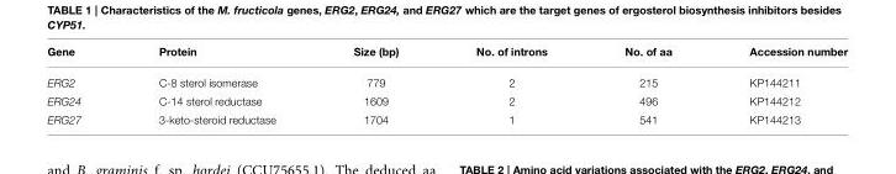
<table><thead><tr><td>Gene</td><td>Protein</td><td>Size (bp)</td><td>No. of introns</td><td>No. of aa</td><td>Accession number</td></tr></thead><tbody><tr><td>ERG2</td><td>C-8 sterol isomerase</td><td>779</td><td>2</td><td>215</td><td>KP144211</td></tr><tr><td>ERG24</td><td>C-14 sterol reductase</td><td>1609</td><td>2</td><td>496</td><td>KP144212</td></tr><tr><td>ERG27</td><td>3-keto-steroid reductase</td><td>1704</td><td>1</td><td>541</td><td>KP144213</td></tr></tbody></table>